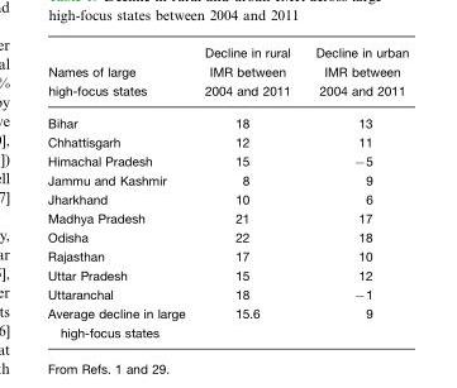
<table><thead><tr><td>Names of large high-focus states</td><td>Decline in rural IMR between 2004 and 2011</td><td>Decline in urban IMR between 2004 and 2011</td></tr></thead><tbody><tr><td>Bihar</td><td>18</td><td>13</td></tr><tr><td>Chhattisgarh</td><td>12</td><td>11</td></tr><tr><td>Himachal Pradesh</td><td>15</td><td>−5</td></tr><tr><td>Jammu and Kashmir</td><td>8</td><td>9</td></tr><tr><td>Jharkhand</td><td>10</td><td>6</td></tr><tr><td>Madhya Pradesh</td><td>21</td><td>17</td></tr><tr><td>Odisha</td><td>22</td><td>18</td></tr><tr><td>Rajasthan</td><td>17</td><td>10</td></tr><tr><td>Uttar Pradesh</td><td>15</td><td>12</td></tr><tr><td>Uttaranchal</td><td>18</td><td>−1</td></tr><tr><td>Average decline in large high-focus states</td><td>15.6</td><td>9</td></tr></tbody></table>